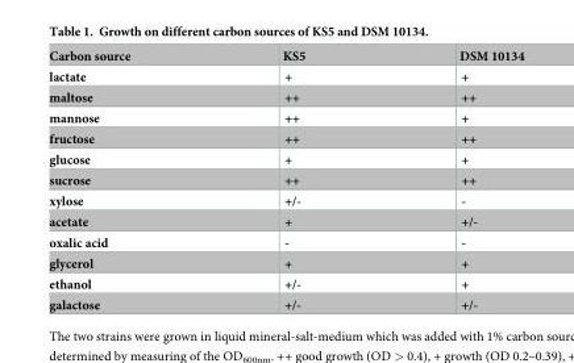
<table><thead><tr><td>Carbon source</td><td>KS5</td><td>DSM 10134</td></tr></thead><tbody><tr><td>lactate</td><td>+</td><td>+</td></tr><tr><td>maltose</td><td>++</td><td>++</td></tr><tr><td>mannose</td><td>++</td><td>+</td></tr><tr><td>fructose</td><td>++</td><td>++</td></tr><tr><td>glucose</td><td>+</td><td>+</td></tr><tr><td>sucrose</td><td>++</td><td>++</td></tr><tr><td>xylose</td><td>+/-</td><td>-</td></tr><tr><td>acetate</td><td>+</td><td>+/-</td></tr><tr><td>oxalic acid</td><td>-</td><td>-</td></tr><tr><td>glycerol</td><td>+</td><td>+</td></tr><tr><td>ethanol</td><td>+/-</td><td>+</td></tr><tr><td>galactose</td><td>+/-</td><td>+/-</td></tr></tbody></table>